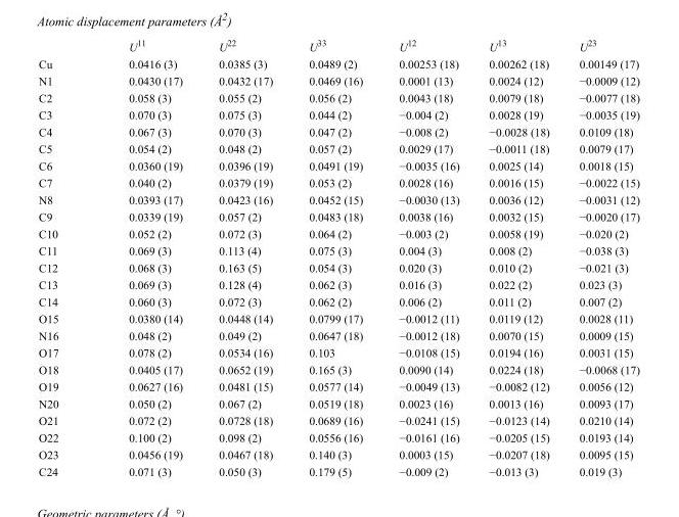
<table><thead><tr><td></td><td>U<sup>11</sup></td><td>U<sup>22</sup></td><td>U<sup>33</sup></td><td>U<sup>12</sup></td><td>U<sup>13</sup></td><td>U<sup>23</sup></td></tr></thead><tbody><tr><td>Cu</td><td>0.0416 (3)</td><td>0.0385 (3)</td><td>0.0489 (2)</td><td>0.00253 (18)</td><td>0.00262 (18)</td><td>0.00149 (17)</td></tr><tr><td>N1</td><td>0.0430 (17)</td><td>0.0432 (17)</td><td>0.0469 (16)</td><td>0.0001 (13)</td><td>0.0024 (12)</td><td>−0.0009 (12)</td></tr><tr><td>C2</td><td>0.058 (3)</td><td>0.055 (2)</td><td>0.056 (2)</td><td>0.0043 (18)</td><td>0.0079 (18)</td><td>−0.0077 (18)</td></tr><tr><td>C3</td><td>0.070 (3)</td><td>0.075 (3)</td><td>0.044 (2)</td><td>−0.004 (2)</td><td>0.0028 (19)</td><td>−0.0035 (19)</td></tr><tr><td>C4</td><td>0.067 (3)</td><td>0.070 (3)</td><td>0.047 (2)</td><td>−0.008 (2)</td><td>−0.0028 (18)</td><td>0.0109 (18)</td></tr><tr><td>C5</td><td>0.054 (2)</td><td>0.048 (2)</td><td>0.057 (2)</td><td>0.0029 (17)</td><td>−0.0011 (18)</td><td>0.0079 (17)</td></tr><tr><td>C6</td><td>0.0360 (19)</td><td>0.0396 (19)</td><td>0.0491 (19)</td><td>−0.0035 (16)</td><td>0.0025 (14)</td><td>0.0018 (15)</td></tr><tr><td>C7</td><td>0.040 (2)</td><td>0.0379 (19)</td><td>0.053 (2)</td><td>0.0028 (16)</td><td>0.0016 (15)</td><td>−0.0022 (15)</td></tr><tr><td>N8</td><td>0.0393 (17)</td><td>0.0423 (16)</td><td>0.0452 (15)</td><td>−0.0030 (13)</td><td>0.0036 (12)</td><td>−0.0031 (12)</td></tr><tr><td>C9</td><td>0.0339 (19)</td><td>0.057 (2)</td><td>0.0483 (18)</td><td>0.0038 (16)</td><td>0.0032 (15)</td><td>−0.0020 (17)</td></tr><tr><td>C10</td><td>0.052 (2)</td><td>0.072 (3)</td><td>0.064 (2)</td><td>−0.003 (2)</td><td>0.0058 (19)</td><td>−0.020 (2)</td></tr><tr><td>C11</td><td>0.069 (3)</td><td>0.113 (4)</td><td>0.075 (3)</td><td>0.004 (3)</td><td>0.008 (2)</td><td>−0.038 (3)</td></tr><tr><td>C12</td><td>0.068 (3)</td><td>0.163 (5)</td><td>0.054 (3)</td><td>0.020 (3)</td><td>0.010 (2)</td><td>−0.021 (3)</td></tr><tr><td>C13</td><td>0.069 (3)</td><td>0.128 (4)</td><td>0.062 (3)</td><td>0.016 (3)</td><td>0.022 (2)</td><td>0.023 (3)</td></tr><tr><td>C14</td><td>0.060 (3)</td><td>0.072 (3)</td><td>0.062 (2)</td><td>0.006 (2)</td><td>0.011 (2)</td><td>0.007 (2)</td></tr><tr><td>O15</td><td>0.0380 (14)</td><td>0.0448 (14)</td><td>0.0799 (17)</td><td>−0.0012 (11)</td><td>0.0119 (12)</td><td>0.0028 (11)</td></tr><tr><td>N16</td><td>0.048 (2)</td><td>0.049 (2)</td><td>0.0647 (18)</td><td>−0.0012 (18)</td><td>0.0070 (15)</td><td>0.0009 (15)</td></tr><tr><td>O17</td><td>0.078 (2)</td><td>0.0534 (16)</td><td>0.103</td><td>−0.0108 (15)</td><td>0.0194 (16)</td><td>0.0031 (15)</td></tr><tr><td>O18</td><td>0.0405 (17)</td><td>0.0652 (19)</td><td>0.165 (3)</td><td>0.0090 (14)</td><td>0.0224 (18)</td><td>−0.0068 (17)</td></tr><tr><td>O19</td><td>0.0627 (16)</td><td>0.0481 (15)</td><td>0.0577 (14)</td><td>−0.0049 (13)</td><td>−0.0082 (12)</td><td>0.0056 (12)</td></tr><tr><td>N20</td><td>0.050 (2)</td><td>0.067 (2)</td><td>0.0519 (18)</td><td>0.0023 (16)</td><td>0.0013 (16)</td><td>0.0093 (17)</td></tr><tr><td>O21</td><td>0.072 (2)</td><td>0.0728 (18)</td><td>0.0689 (16)</td><td>−0.0241 (15)</td><td>−0.0123 (14)</td><td>0.0210 (14)</td></tr><tr><td>O22</td><td>0.100 (2)</td><td>0.098 (2)</td><td>0.0556 (16)</td><td>−0.0161 (16)</td><td>−0.0205 (15)</td><td>0.0193 (14)</td></tr><tr><td>O23</td><td>0.0456 (19)</td><td>0.0467 (18)</td><td>0.140 (3)</td><td>0.0003 (15)</td><td>−0.0207 (18)</td><td>0.0095 (15)</td></tr><tr><td>C24</td><td>0.071 (3)</td><td>0.050 (3)</td><td>0.179 (5)</td><td>−0.009 (2)</td><td>−0.013 (3)</td><td>0.019 (3)</td></tr></tbody></table>